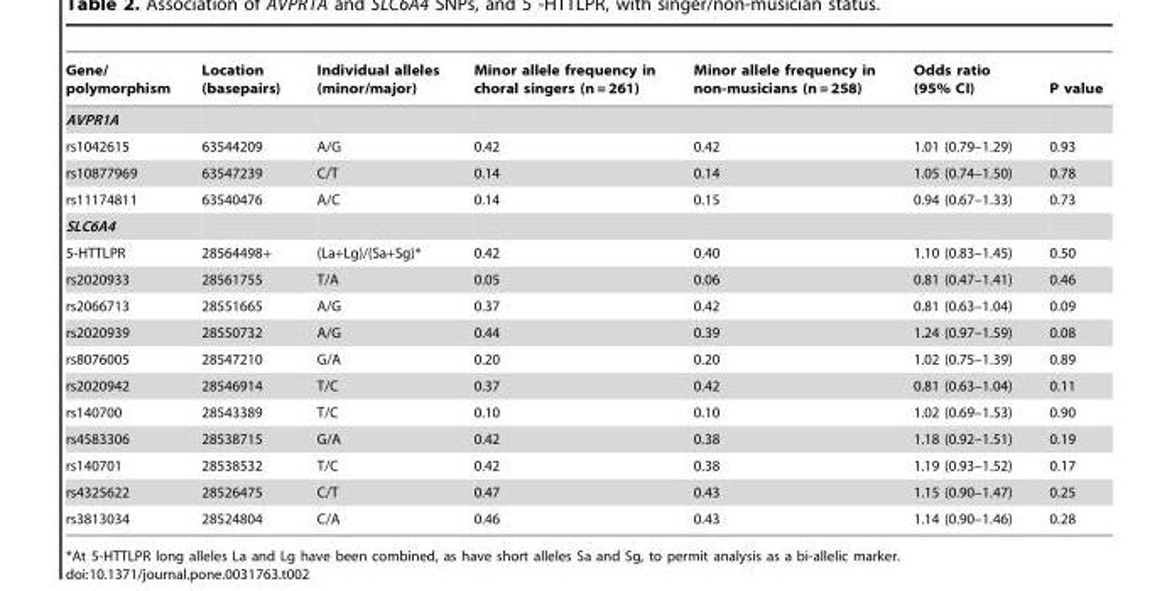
<table><thead><tr><td>Gene/ polymorphism</td><td>Location (basepairs)</td><td>Individual alleles (minor/major)</td><td>Minor allele frequency in choral singers (n = 261)</td><td>Minor allele frequency in non-musicians (n = 258)</td><td>Odds ratio (95% CI)</td><td>P value</td></tr></thead><tbody><tr><td colspan="7">AVPR1A</td></tr><tr><td>rs1042615</td><td>63544209</td><td>A/G</td><td>0.42</td><td>0.42</td><td>1.01 (0.79–1.29)</td><td>0.93</td></tr><tr><td>rs10877969</td><td>63547239</td><td>C/T</td><td>0.14</td><td>0.14</td><td>1.05 (0.74–1.50)</td><td>0.78</td></tr><tr><td>rs11174811</td><td>63540476</td><td>A/C</td><td>0.14</td><td>0.15</td><td>0.94 (0.67–1.33)</td><td>0.73</td></tr><tr><td colspan="7">SLC6A4</td></tr><tr><td>5-HTTLPR</td><td>28564498+</td><td>(La+Lg)/(Sa+Sg)*</td><td>0.42</td><td>0.40</td><td>1.10 (0.83–1.45)</td><td>0.50</td></tr><tr><td>rs2020933</td><td>28561755</td><td>T/A</td><td>0.05</td><td>0.06</td><td>0.81 (0.47–1.41)</td><td>0.46</td></tr><tr><td>rs2066713</td><td>28551665</td><td>A/G</td><td>0.37</td><td>0.42</td><td>0.81 (0.63–1.04)</td><td>0.09</td></tr><tr><td>rs2020939</td><td>28550732</td><td>A/G</td><td>0.44</td><td>0.39</td><td>1.24 (0.97–1.59)</td><td>0.08</td></tr><tr><td>rs8076005</td><td>28547210</td><td>G/A</td><td>0.20</td><td>0.20</td><td>1.02 (0.75–1.39)</td><td>0.89</td></tr><tr><td>rs2020942</td><td>28546914</td><td>T/C</td><td>0.37</td><td>0.42</td><td>0.81 (0.63–1.04)</td><td>0.11</td></tr><tr><td>rs140700</td><td>28543389</td><td>T/C</td><td>0.10</td><td>0.10</td><td>1.02 (0.69–1.53)</td><td>0.90</td></tr><tr><td>rs4583306</td><td>28538715</td><td>G/A</td><td>0.42</td><td>0.38</td><td>1.18 (0.92–1.51)</td><td>0.19</td></tr><tr><td>rs140701</td><td>28538532</td><td>T/C</td><td>0.42</td><td>0.38</td><td>1.19 (0.93–1.52)</td><td>0.17</td></tr><tr><td>rs4325622</td><td>28526475</td><td>C/T</td><td>0.47</td><td>0.43</td><td>1.15 (0.90–1.47)</td><td>0.25</td></tr><tr><td>rs3813034</td><td>28524804</td><td>C/A</td><td>0.46</td><td>0.43</td><td>1.14 (0.90–1.46)</td><td>0.28</td></tr></tbody></table>